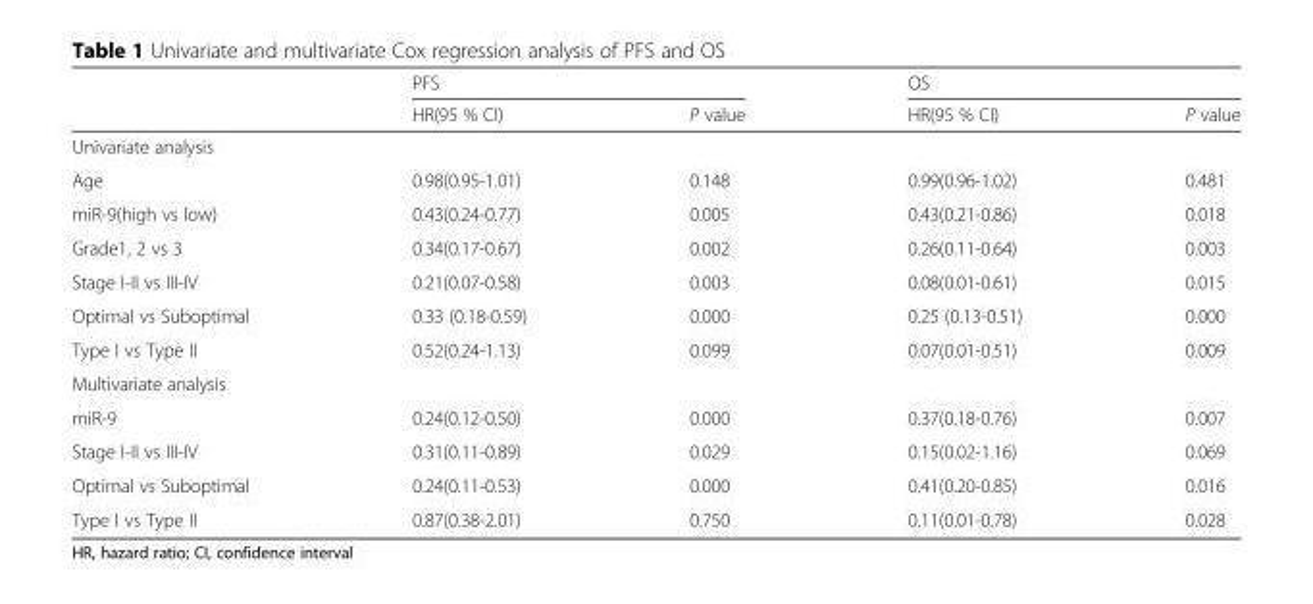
<table><thead><tr><td rowspan="2"></td><td colspan="2">PFS</td><td colspan="2">OS</td></tr><tr><td>HR(95 % CI)</td><td>P value</td><td>HR(95 % CI)</td><td>P value</td></tr></thead><tbody><tr><td colspan="5">Univariate analysis</td></tr><tr><td>Age</td><td>0.98(0.95-1.01)</td><td>0.148</td><td>0.99(0.96-1.02)</td><td>0.481</td></tr><tr><td>miR-9(high vs low)</td><td>0.43(0.24-0.77)</td><td>0.005</td><td>0.43(0.21-0.86)</td><td>0.018</td></tr><tr><td>Grade1, 2 vs 3</td><td>0.34(0.17-0.67)</td><td>0.002</td><td>0.26(0.11-0.64)</td><td>0.003</td></tr><tr><td>Stage I-II vs III-IV</td><td>0.21(0.07-0.58)</td><td>0.003</td><td>0.08(0.01-0.61)</td><td>0.015</td></tr><tr><td>Optimal vs Suboptimal</td><td>0.33 (0.18-0.59)</td><td>0.000</td><td>0.25 (0.13-0.51)</td><td>0.000</td></tr><tr><td>Type I vs Type II</td><td>0.52(0.24-1.13)</td><td>0.099</td><td>0.07(0.01-0.51)</td><td>0.009</td></tr><tr><td colspan="5">Multivariate analysis</td></tr><tr><td>miR-9</td><td>0.24(0.12-0.50)</td><td>0.000</td><td>0.37(0.18-0.76)</td><td>0.007</td></tr><tr><td>Stage I-II vs III-IV</td><td>0.31(0.11-0.89)</td><td>0.029</td><td>0.15(0.02-1.16)</td><td>0.069</td></tr><tr><td>Optimal vs Suboptimal</td><td>0.24(0.11-0.53)</td><td>0.000</td><td>0.41(0.20-0.85)</td><td>0.016</td></tr><tr><td>Type I vs Type II</td><td>0.87(0.38-2.01)</td><td>0.750</td><td>0.11(0.01-0.78)</td><td>0.028</td></tr></tbody></table>